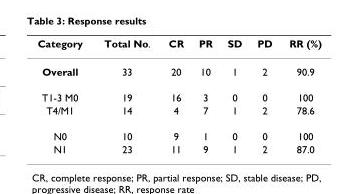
<table><thead><tr><td>Category</td><td>Total No.</td><td>CR</td><td>PR</td><td>SD</td><td>PD</td><td>RR (%)</td></tr></thead><tbody><tr><td>Overall</td><td>33</td><td>20</td><td>10</td><td>1</td><td>2</td><td>90.9</td></tr><tr><td>T1-3 M0</td><td>19</td><td>16</td><td>3</td><td>0</td><td>0</td><td>100</td></tr><tr><td>T4/M1</td><td>14</td><td>4</td><td>7</td><td>1</td><td>2</td><td>78.6</td></tr><tr><td>N0</td><td>10</td><td>9</td><td>1</td><td>0</td><td>0</td><td>100</td></tr><tr><td>N1</td><td>23</td><td>11</td><td>9</td><td>1</td><td>2</td><td>87.0</td></tr></tbody></table>